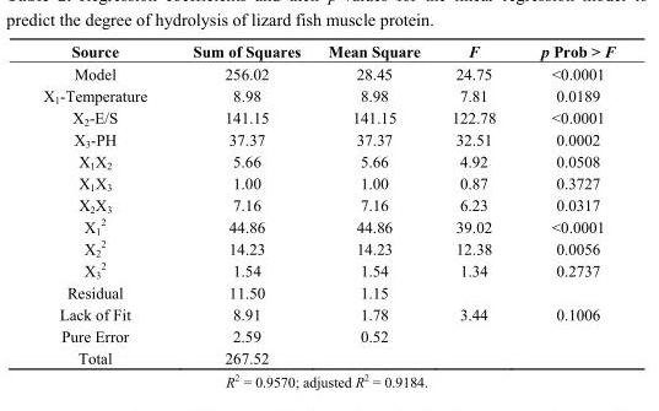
<table><thead><tr><td>Source</td><td>Sum of Squares</td><td>Mean Square</td><td>F</td><td>p Prob &gt; F</td></tr></thead><tbody><tr><td>Model</td><td>256.02</td><td>28.45</td><td>24.75</td><td>&lt;0.0001</td></tr><tr><td>X<sub>1</sub>-Temperature</td><td>8.98</td><td>8.98</td><td>7.81</td><td>0.0189</td></tr><tr><td>X<sub>2</sub>-E/S</td><td>141.15</td><td>141.15</td><td>122.78</td><td>&lt;0.0001</td></tr><tr><td>X<sub>3</sub>-PH</td><td>37.37</td><td>37.37</td><td>32.51</td><td>0.0002</td></tr><tr><td>X<sub>1</sub>X<sub>2</sub></td><td>5.66</td><td>5.66</td><td>4.92</td><td>0.0508</td></tr><tr><td>X<sub>1</sub>X<sub>3</sub></td><td>1.00</td><td>1.00</td><td>0.87</td><td>0.3727</td></tr><tr><td>X<sub>2</sub>X<sub>3</sub></td><td>7.16</td><td>7.16</td><td>6.23</td><td>0.0317</td></tr><tr><td>X<sub>1</sub> <sup>2</sup></td><td>44.86</td><td>44.86</td><td>39.02</td><td>&lt;0.0001</td></tr><tr><td>X<sub>2</sub> <sup>2</sup></td><td>14.23</td><td>14.23</td><td>12.38</td><td>0.0056</td></tr><tr><td>X<sub>3</sub> <sup>2</sup></td><td>1.54</td><td>1.54</td><td>1.34</td><td>0.2737</td></tr><tr><td>Residual</td><td>11.50</td><td>1.15</td><td></td><td></td></tr><tr><td>Lack of Fit</td><td>8.91</td><td>1.78</td><td>3.44</td><td>0.1006</td></tr><tr><td>Pure Error</td><td>2.59</td><td>0.52</td><td></td><td></td></tr><tr><td>Total</td><td>267.52</td><td></td><td></td><td></td></tr></tbody></table>